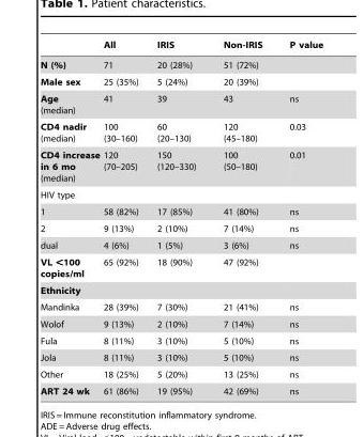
<table><thead><tr><td></td><td>All</td><td>IRIS</td><td>Non-IRIS</td><td>P value</td></tr></thead><tbody><tr><td>N (%)</td><td>71</td><td>20 (28%)</td><td>51 (72%)</td><td></td></tr><tr><td>Male sex</td><td>25 (35%)</td><td>5 (24%)</td><td>20 (39%)</td><td></td></tr><tr><td>Age (median)</td><td>41</td><td>39</td><td>43</td><td>ns</td></tr><tr><td>CD4 nadir (median)</td><td>100 (30–160)</td><td>60 (20–130)</td><td>120 (45–180)</td><td>0.03</td></tr><tr><td>CD4 increase in 6 mo (median)</td><td>120 (70–205)</td><td>150 (120–330)</td><td>100 (50–180)</td><td>0.01</td></tr><tr><td colspan="5">HIV type</td></tr><tr><td>1</td><td>58 (82%)</td><td>17 (85%)</td><td>41 (80%)</td><td>ns</td></tr><tr><td>2</td><td>9 (13%)</td><td>2 (10%)</td><td>7 (14%)</td><td>ns</td></tr><tr><td>dual</td><td>4 (6%)</td><td>1 (5%)</td><td>3 (6%)</td><td>ns</td></tr><tr><td>VL &lt;100 copies/ml</td><td>65 (92%)</td><td>18 (90%)</td><td>47 (92%)</td><td></td></tr><tr><td colspan="5">Ethnicity</td></tr><tr><td>Mandinka</td><td>28 (39%)</td><td>7 (30%)</td><td>21 (41%)</td><td>ns</td></tr><tr><td>Wolof</td><td>9 (13%)</td><td>2 (10%)</td><td>7 (14%)</td><td>ns</td></tr><tr><td>Fula</td><td>8 (11%)</td><td>3 (10%)</td><td>5 (10%)</td><td>ns</td></tr><tr><td>Jola</td><td>8 (11%)</td><td>3 (10%)</td><td>5 (10%)</td><td>ns</td></tr><tr><td>Other</td><td>18 (25%)</td><td>5 (20%)</td><td>13 (25%)</td><td>ns</td></tr><tr><td>ART 24 wk</td><td>61 (86%)</td><td>19 (95%)</td><td>42 (69%)</td><td>ns</td></tr></tbody></table>